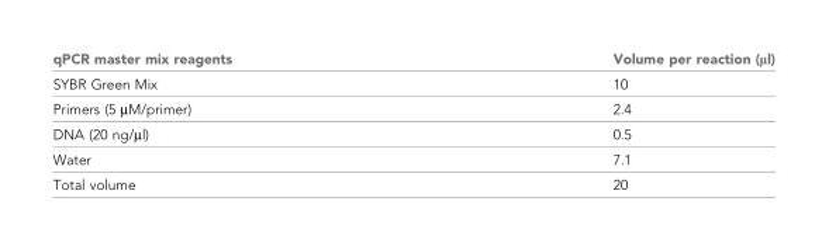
<table><thead><tr><td>qPCR master mix reagents</td><td>Volume per reaction (μl)</td></tr></thead><tbody><tr><td>SYBR Green Mix</td><td>10</td></tr><tr><td>Primers (5 μM/primer)</td><td>2.4</td></tr><tr><td>DNA (20 ng/μl)</td><td>0.5</td></tr><tr><td>Water</td><td>7.1</td></tr><tr><td>Total volume</td><td>20</td></tr></tbody></table>